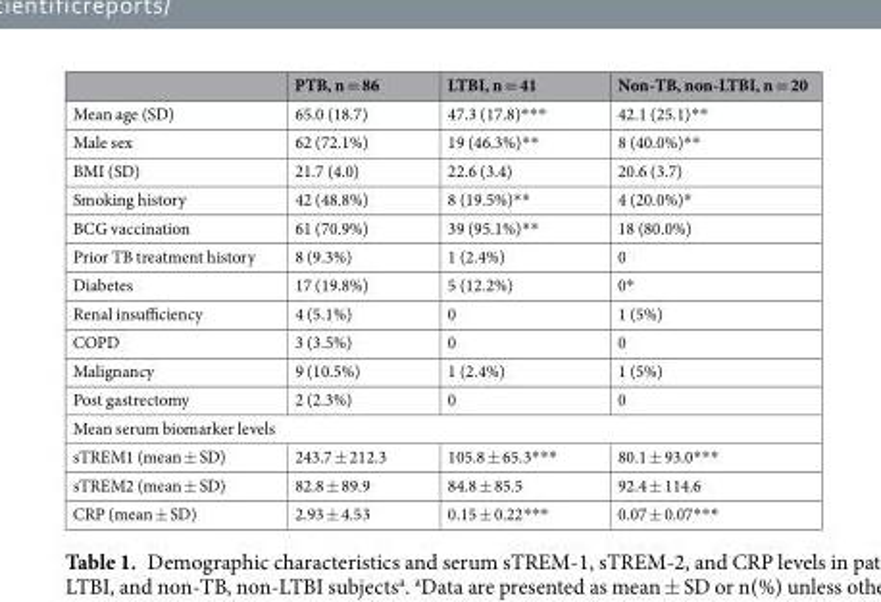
<table><thead><tr><td></td><td>PTB, n = 86</td><td>LTBI, n = 41</td><td>Non-TB, non-LTBI, n = 20</td></tr></thead><tbody><tr><td>Mean age (SD)</td><td>65.0 (18.7)</td><td>47.3 (17.8)***</td><td>42.1 (25.1)**</td></tr><tr><td>Male sex</td><td>62 (72.1%)</td><td>19 (46.3%)**</td><td>8 (40.0%)**</td></tr><tr><td>BMI (SD)</td><td>21.7 (4.0)</td><td>22.6 (3.4)</td><td>20.6 (3.7)</td></tr><tr><td>Smoking history</td><td>42 (48.8%)</td><td>8 (19.5%)**</td><td>4 (20.0%)*</td></tr><tr><td>BCG vaccination</td><td>61 (70.9%)</td><td>39 (95.1%)**</td><td>18 (80.0%)</td></tr><tr><td>Prior TB treatment history</td><td>8 (9.3%)</td><td>1 (2.4%)</td><td>0</td></tr><tr><td>Diabetes</td><td>17 (19.8%)</td><td>5 (12.2%)</td><td>0*</td></tr><tr><td>Renal insufficiency</td><td>4 (5.1%)</td><td>0</td><td>1 (5%)</td></tr><tr><td>COPD</td><td>3 (3.5%)</td><td>0</td><td>0</td></tr><tr><td>Malignancy</td><td>9 (10.5%)</td><td>1 (2.4%)</td><td>1 (5%)</td></tr><tr><td>Post gastrectomy</td><td>2 (2.3%)</td><td>0</td><td>0</td></tr><tr><td colspan="4">Mean serum biomarker levels</td></tr><tr><td>sTREM1 (mean ± SD)</td><td>243.7 ± 212.3</td><td>105.8 ± 65.3***</td><td>80.1 ± 93.0***</td></tr><tr><td>sTREM2 (mean ± SD)</td><td>82.8 ± 89.9</td><td>84.8 ± 85.5</td><td>92.4 ± 114.6</td></tr><tr><td>CRP (mean ± SD)</td><td>2.93 ± 4.53</td><td>0.15 ± 0.22***</td><td>0.07 ± 0.07***</td></tr></tbody></table>